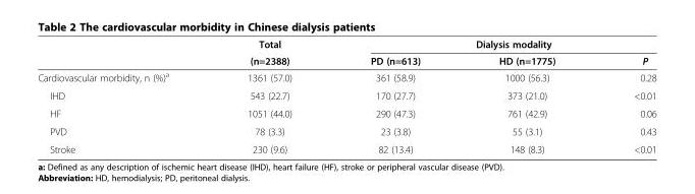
<table><thead><tr><td rowspan="2"></td><td rowspan="2">Total (n=2388)</td><td colspan="3">Dialysis modality</td></tr><tr><td>PD (n=613)</td><td>HD (n=1775)</td><td>P</td></tr></thead><tbody><tr><td>Cardiovascular morbidity, n (%)<sup>a</sup></td><td>1361 (57.0)</td><td>361 (58.9)</td><td>1000 (56.3)</td><td>0.28</td></tr><tr><td>IHD</td><td>543 (22.7)</td><td>170 (27.7)</td><td>373 (21.0)</td><td>&lt;0.01</td></tr><tr><td>HF</td><td>1051 (44.0)</td><td>290 (47.3)</td><td>761 (42.9)</td><td>0.06</td></tr><tr><td>PVD</td><td>78 (3.3)</td><td>23 (3.8)</td><td>55 (3.1)</td><td>0.43</td></tr><tr><td>Stroke</td><td>230 (9.6)</td><td>82 (13.4)</td><td>148 (8.3)</td><td>&lt;0.01</td></tr></tbody></table>